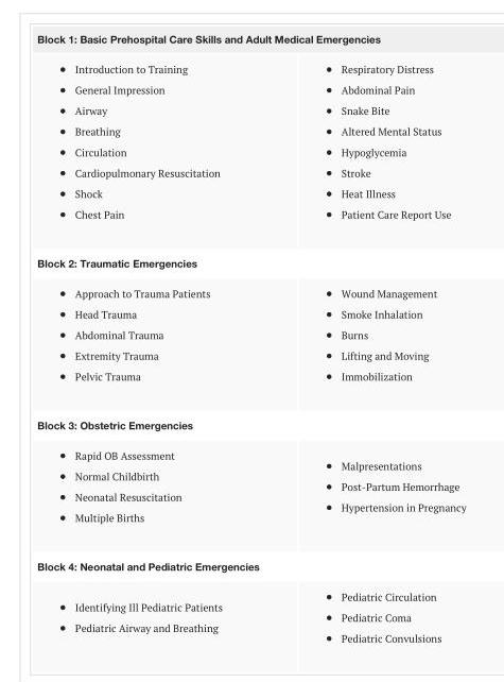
<table><tbody><tr><td colspan="2">Block 1: Basic Prehospital Care Skills and Adult Medical Emergencies</td></tr><tr><td>Introduction to Training General Impression Airway Breathing Circulation Cardiopulmonary Resuscitation Shock Chest Pain</td><td>Respiratory Distress Abdominal Pain Snake Bite Altered Mental Status Hypoglycemia Stroke Heat Illness Patient Care Report Use</td></tr><tr><td colspan="2">Block 2: Traumatic Emergencies</td></tr><tr><td>Approach to Trauma Patients Head Trauma Abdominal Trauma Extremity Trauma Pelvic Trauma</td><td>Wound Management Smoke Inhalation Burns Lifting and Moving Immobilization</td></tr><tr><td colspan="2">Block 3: Obstetric Emergencies</td></tr><tr><td>Rapid OB Assessment Normal Childbirth Neonatal Resuscitation Multiple Births</td><td>Malpresentations Post-Partum Hemorrhage Hypertension in Pregnancy</td></tr><tr><td colspan="2">Block 4: Neonatal and Pediatric Emergencies</td></tr><tr><td>Identifying Ill Pediatric Patients Pediatric Airway and Breathing</td><td>Pediatric Circulation Pediatric Coma Pediatric Convulsions</td></tr></tbody></table>